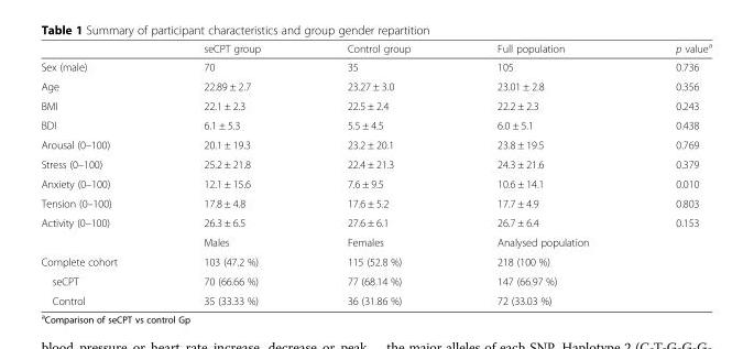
<table><thead><tr><td></td><td>seCPT group</td><td>Control group</td><td>Full population</td><td>p value<sup>a</sup></td></tr></thead><tbody><tr><td>Sex (male)</td><td>70</td><td>35</td><td>105</td><td>0.736</td></tr><tr><td>Age</td><td>22.89 ± 2.7</td><td>23.27 ± 3.0</td><td>23.01 ± 2.8</td><td>0.356</td></tr><tr><td>BMI</td><td>22.1 ± 2.3</td><td>22.5 ± 2.4</td><td>22.2 ± 2.3</td><td>0.243</td></tr><tr><td>BDI</td><td>6.1 ± 5.3</td><td>5.5 ± 4.5</td><td>6.0 ± 5.1</td><td>0.438</td></tr><tr><td>Arousal (0–100)</td><td>20.1 ± 19.3</td><td>23.2 ± 20.1</td><td>23.8 ± 19.5</td><td>0.769</td></tr><tr><td>Stress (0–100)</td><td>25.2 ± 21.8</td><td>22.4 ± 21.3</td><td>24.3 ± 21.6</td><td>0.379</td></tr><tr><td>Anxiety (0–100)</td><td>12.1 ± 15.6</td><td>7.6 ± 9.5</td><td>10.6 ± 14.1</td><td>0.010</td></tr><tr><td>Tension (0–100)</td><td>17.8 ± 4.8</td><td>17.6 ± 5.2</td><td>17.7 ± 4.9</td><td>0.803</td></tr><tr><td rowspan="2">Activity (0–100)</td><td>26.3 ± 6.5</td><td>27.6 ± 6.1</td><td>26.7 ± 6.4</td><td>0.153</td></tr><tr><td>Males</td><td>Females</td><td>Analysed population</td><td></td></tr><tr><td>Complete cohort</td><td>103 (47.2 %)</td><td>115 (52.8 %)</td><td>218 (100 %)</td><td></td></tr><tr><td>seCPT</td><td>70 (66.66 %)</td><td>77 (68.14 %)</td><td>147 (66.97 %)</td><td></td></tr><tr><td>Control</td><td>35 (33.33 %)</td><td>36 (31.86 %)</td><td>72 (33.03 %)</td><td></td></tr></tbody></table>